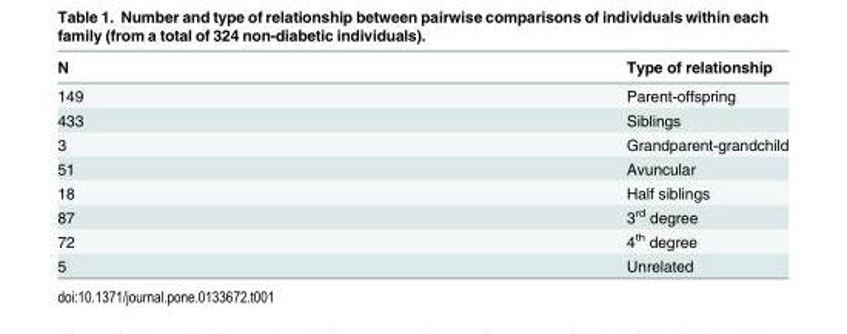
<table><thead><tr><td>N</td><td>Type of relationship</td></tr></thead><tbody><tr><td>149</td><td>Parent-offspring</td></tr><tr><td>433</td><td>Siblings</td></tr><tr><td>3</td><td>Grandparent-grandchild</td></tr><tr><td>51</td><td>Avuncular</td></tr><tr><td>18</td><td>Half siblings</td></tr><tr><td>87</td><td>3<sup>rd</sup> degree</td></tr><tr><td>72</td><td>4<sup>th</sup> degree</td></tr><tr><td>5</td><td>Unrelated</td></tr></tbody></table>